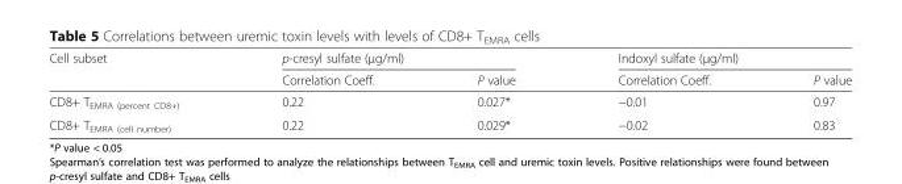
<table><thead><tr><td rowspan="2">Cell subset</td><td colspan="2">p-cresyl sulfate (μg/ml)</td><td colspan="2">Indoxyl sulfate (μg/ml)</td></tr><tr><td>Correlation Coeff.</td><td>P value</td><td>Correlation Coeff.</td><td>P value</td></tr></thead><tbody><tr><td>CD8+ T<sub>EMRA (percent CD8+)</sub></td><td>0.22</td><td>0.027*</td><td>−0.01</td><td>0.97</td></tr><tr><td>CD8+ T<sub>EMRA (cell number)</sub></td><td>0.22</td><td>0.029*</td><td>−0.02</td><td>0.83</td></tr></tbody></table>